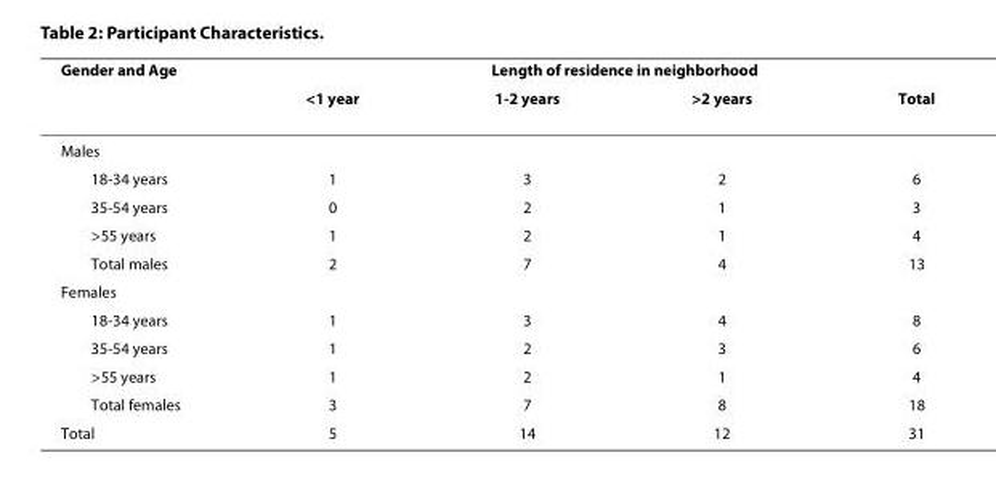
<table><thead><tr><td rowspan="2">Gender and Age</td><td colspan="4">Length of residence in neighborhood</td></tr><tr><td>&lt;1 year</td><td>1-2 years</td><td>&gt;2 years</td><td>Total</td></tr></thead><tbody><tr><td colspan="5">Males</td></tr><tr><td>18-34 years</td><td>1</td><td>3</td><td>2</td><td>6</td></tr><tr><td>35-54 years</td><td>0</td><td>2</td><td>1</td><td>3</td></tr><tr><td>&gt;55 years</td><td>1</td><td>2</td><td>1</td><td>4</td></tr><tr><td>Total males</td><td>2</td><td>7</td><td>4</td><td>13</td></tr><tr><td colspan="5">Females</td></tr><tr><td>18-34 years</td><td>1</td><td>3</td><td>4</td><td>8</td></tr><tr><td>35-54 years</td><td>1</td><td>2</td><td>3</td><td>6</td></tr><tr><td>&gt;55 years</td><td>1</td><td>2</td><td>1</td><td>4</td></tr><tr><td>Total females</td><td>3</td><td>7</td><td>8</td><td>18</td></tr><tr><td>Total</td><td>5</td><td>14</td><td>12</td><td>31</td></tr></tbody></table>